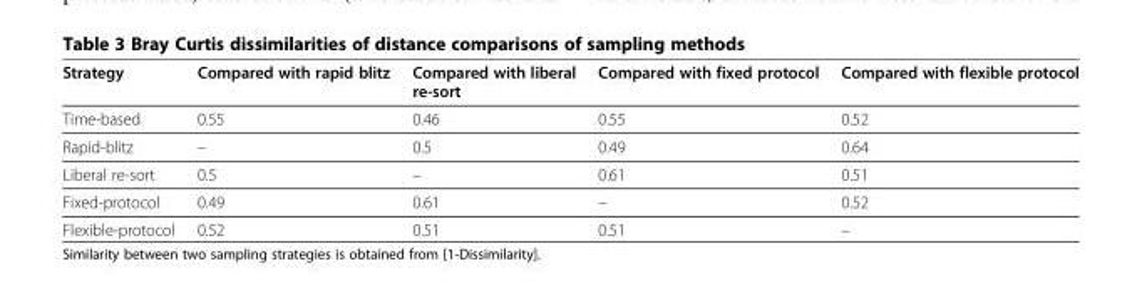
<table><thead><tr><td>Strategy</td><td>Compared with rapid blitz</td><td>Compared with liberal re-sort</td><td>Compared with fixed protocol</td><td>Compared with flexible protocol</td></tr></thead><tbody><tr><td>Time-based</td><td>0.55</td><td>0.46</td><td>0.55</td><td>0.52</td></tr><tr><td>Rapid-blitz</td><td>–</td><td>0.5</td><td>0.49</td><td>0.64</td></tr><tr><td>Liberal re-sort</td><td>0.5</td><td>–</td><td>0.61</td><td>0.51</td></tr><tr><td>Fixed-protocol</td><td>0.49</td><td>0.61</td><td>–</td><td>0.52</td></tr><tr><td>Flexible-protocol</td><td>0.52</td><td>0.51</td><td>0.51</td><td>–</td></tr></tbody></table>